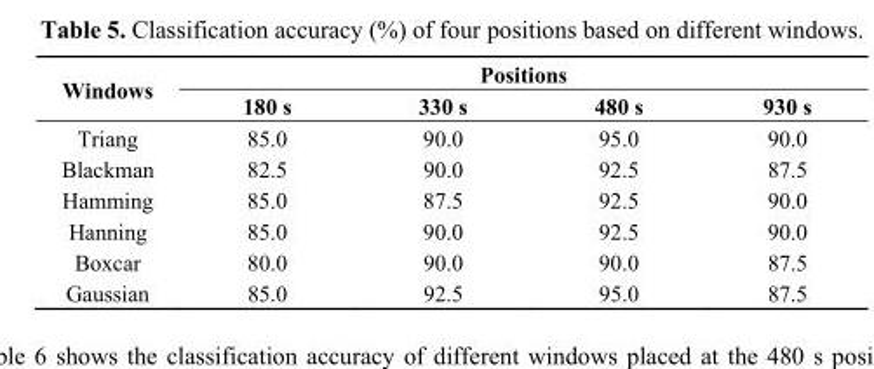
<table><thead><tr><td rowspan="2">Windows</td><td colspan="4">Positions</td></tr><tr><td>180 s</td><td>330 s</td><td>480 s</td><td>930 s</td></tr></thead><tbody><tr><td>Triang</td><td>85.0</td><td>90.0</td><td>95.0</td><td>90.0</td></tr><tr><td>Blackman</td><td>82.5</td><td>90.0</td><td>92.5</td><td>87.5</td></tr><tr><td>Hamming</td><td>85.0</td><td>87.5</td><td>92.5</td><td>90.0</td></tr><tr><td>Hanning</td><td>85.0</td><td>90.0</td><td>92.5</td><td>90.0</td></tr><tr><td>Boxcar</td><td>80.0</td><td>90.0</td><td>90.0</td><td>87.5</td></tr><tr><td>Gaussian</td><td>85.0</td><td>92.5</td><td>95.0</td><td>87.5</td></tr></tbody></table>